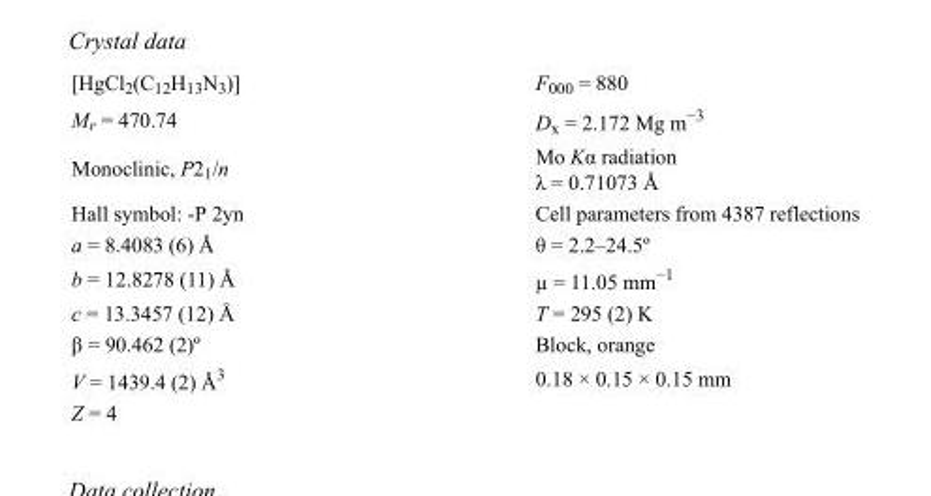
<table><tbody><tr><td>[HgCl<sub>2</sub>(C<sub>12</sub>H<sub>13</sub>N<sub>3</sub>)]</td><td>F<sub>000</sub> = 880</td></tr><tr><td>M<sub>r</sub> = 470.74</td><td>D<sub>x</sub> = 2.172 Mg m<sup>−3</sup></td></tr><tr><td>Monoclinic, P2<sub>1</sub>/n</td><td>Mo Kα radiation λ = 0.71073 Å</td></tr><tr><td>Hall symbol: -P 2yn</td><td>Cell parameters from 4387 reflections</td></tr><tr><td>a = 8.4083 (6) Å</td><td>θ = 2.2–24.5º</td></tr><tr><td>b = 12.8278 (11) Å</td><td>µ = 11.05 mm<sup>−1</sup></td></tr><tr><td>c = 13.3457 (12) Å</td><td>T = 295 (2) K</td></tr><tr><td>β = 90.462 (2)º</td><td>Block, orange</td></tr><tr><td>V = 1439.4 (2) Å<sup>3</sup></td><td>0.18 × 0.15 × 0.15 mm</td></tr><tr><td>Z = 4</td><td></td></tr></tbody></table>